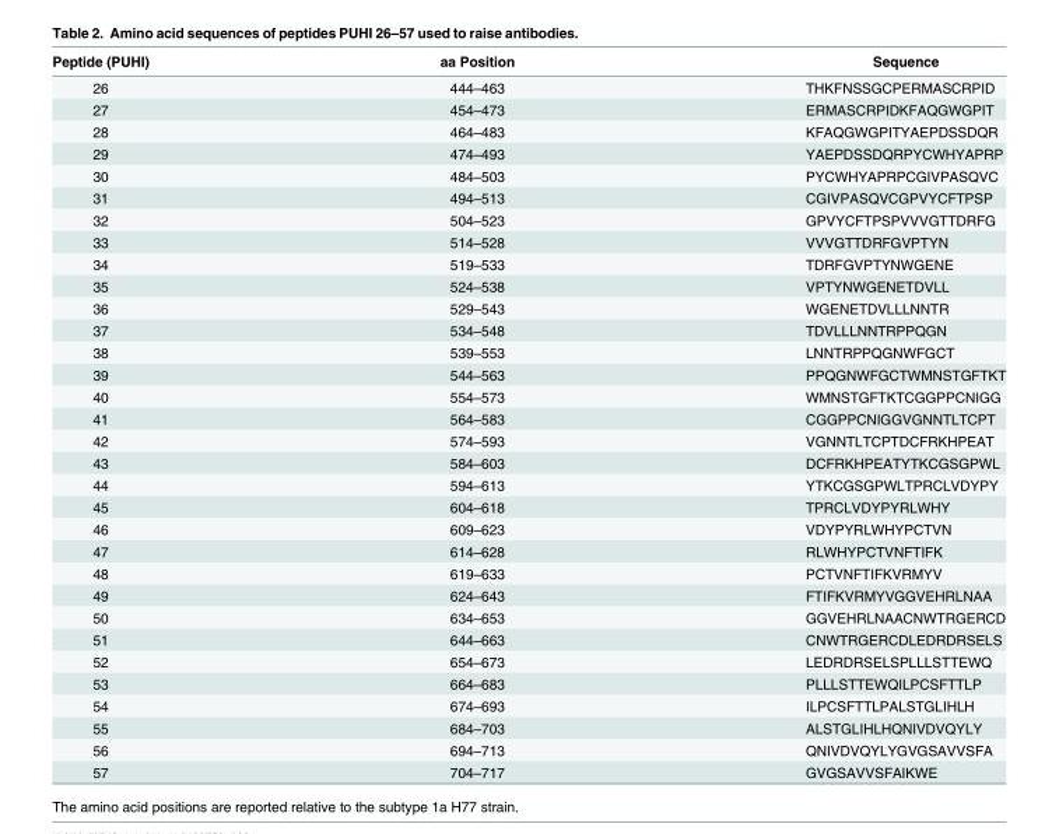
<table><thead><tr><td>Peptide (PUHI)</td><td>aa Position</td><td>Sequence</td></tr></thead><tbody><tr><td>26</td><td>444–463</td><td>THKFNSSGCPERMASCRPID</td></tr><tr><td>27</td><td>454–473</td><td>ERMASCRPIDKFAQGWGPIT</td></tr><tr><td>28</td><td>464–483</td><td>KFAQGWGPITYAEPDSSDQR</td></tr><tr><td>29</td><td>474–493</td><td>YAEPDSSDQRPYCWHYAPRP</td></tr><tr><td>30</td><td>484–503</td><td>PYCWHYAPRPCGIVPASQVC</td></tr><tr><td>31</td><td>494–513</td><td>CGIVPASQVCGPVYCFTPSP</td></tr><tr><td>32</td><td>504–523</td><td>GPVYCFTPSPVVVGTTDRFG</td></tr><tr><td>33</td><td>514–528</td><td>VVVGTTDRFGVPTYN</td></tr><tr><td>34</td><td>519–533</td><td>TDRFGVPTYNWGENE</td></tr><tr><td>35</td><td>524–538</td><td>VPTYNWGENETDVLL</td></tr><tr><td>36</td><td>529–543</td><td>WGENETDVLLLNNTR</td></tr><tr><td>37</td><td>534–548</td><td>TDVLLLNNTRPPQGN</td></tr><tr><td>38</td><td>539–553</td><td>LNNTRPPQGNWFGCT</td></tr><tr><td>39</td><td>544–563</td><td>PPQGNWFGCTWMNSTGFTKT</td></tr><tr><td>40</td><td>554–573</td><td>WMNSTGFTKTCGGPPCNIGG</td></tr><tr><td>41</td><td>564–583</td><td>CGGPPCNIGGVGNNTLTCPT</td></tr><tr><td>42</td><td>574–593</td><td>VGNNTLTCPTDCFRKHPEAT</td></tr><tr><td>43</td><td>584–603</td><td>DCFRKHPEATYTKCGSGPWL</td></tr><tr><td>44</td><td>594–613</td><td>YTKCGSGPWLTPRCLVDYPY</td></tr><tr><td>45</td><td>604–618</td><td>TPRCLVDYPYRLWHY</td></tr><tr><td>46</td><td>609–623</td><td>VDYPYRLWHYPCTVN</td></tr><tr><td>47</td><td>614–628</td><td>RLWHYPCTVNFTIFK</td></tr><tr><td>48</td><td>619–633</td><td>PCTVNFTIFKVRMYV</td></tr><tr><td>49</td><td>624–643</td><td>FTIFKVRMYVGGVEHRLNAA</td></tr><tr><td>50</td><td>634–653</td><td>GGVEHRLNAACNWTRGERCD</td></tr><tr><td>51</td><td>644–663</td><td>CNWTRGERCDLEDRDRSELS</td></tr><tr><td>52</td><td>654–673</td><td>LEDRDRSELSPLLLSTTEWQ</td></tr><tr><td>53</td><td>664–683</td><td>PLLLSTTEWQILPCSFTTLP</td></tr><tr><td>54</td><td>674–693</td><td>ILPCSFTTLPALSTGLIHLH</td></tr><tr><td>55</td><td>684–703</td><td>ALSTGLIHLHQNIVDVQYLY</td></tr><tr><td>56</td><td>694–713</td><td>QNIVDVQYLYGVGSAVVSFA</td></tr><tr><td>57</td><td>704–717</td><td>GVGSAVVSFAIKWE</td></tr></tbody></table>